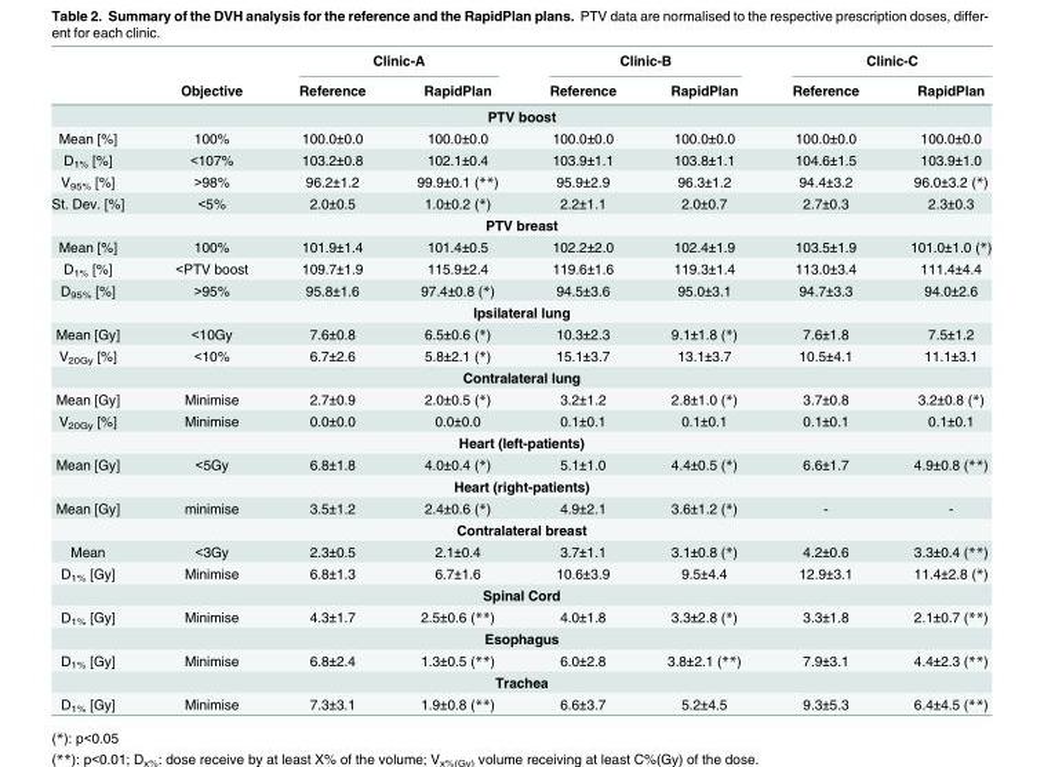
<table><thead><tr><td rowspan="2"></td><td rowspan="2">Objective</td><td colspan="2">Clinic-A</td><td colspan="2">Clinic-B</td><td colspan="2">Clinic-C</td></tr><tr><td>Reference</td><td>RapidPlan</td><td>Reference</td><td>RapidPlan</td><td>Reference</td><td>RapidPlan</td></tr></thead><tbody><tr><td colspan="8">PTV boost</td></tr><tr><td>Mean [%]</td><td>100%</td><td>100.0±0.0</td><td>100.0±0.0</td><td>100.0±0.0</td><td>100.0±0.0</td><td>100.0±0.0</td><td>100.0±0.0</td></tr><tr><td>D<sub>1%</sub> [%]</td><td>&lt;107%</td><td>103.2±0.8</td><td>102.1±0.4</td><td>103.9±1.1</td><td>103.8±1.1</td><td>104.6±1.5</td><td>103.9±1.0</td></tr><tr><td>V<sub>95%</sub> [%]</td><td>&gt;98%</td><td>96.2±1.2</td><td>99.9±0.1 (**)</td><td>95.9±2.9</td><td>96.3±1.2</td><td>94.4±3.2</td><td>96.0±3.2 (*)</td></tr><tr><td>St. Dev. [%]</td><td>&lt;5%</td><td>2.0±0.5</td><td>1.0±0.2 (*)</td><td>2.2±1.1</td><td>2.0±0.7</td><td>2.7±0.3</td><td>2.3±0.3</td></tr><tr><td colspan="8">PTV breast</td></tr><tr><td>Mean [%]</td><td>100%</td><td>101.9±1.4</td><td>101.4±0.5</td><td>102.2±2.0</td><td>102.4±1.9</td><td>103.5±1.9</td><td>101.0±1.0 (*)</td></tr><tr><td>D<sub>1%</sub> [%]</td><td>&lt;PTV boost</td><td>109.7±1.9</td><td>115.9±2.4</td><td>119.6±1.6</td><td>119.3±1.4</td><td>113.0±3.4</td><td>111.4±4.4</td></tr><tr><td>D<sub>95%</sub> [%]</td><td>&gt;95%</td><td>95.8±1.6</td><td>97.4±0.8 (*)</td><td>94.5±3.6</td><td>95.0±3.1</td><td>94.7±3.3</td><td>94.0±2.6</td></tr><tr><td colspan="8">Ipsilateral lung</td></tr><tr><td>Mean [Gy]</td><td>&lt;10Gy</td><td>7.6±0.8</td><td>6.5±0.6 (*)</td><td>10.3±2.3</td><td>9.1±1.8 (*)</td><td>7.6±1.8</td><td>7.5±1.2</td></tr><tr><td>V<sub>20Gy</sub> [%]</td><td>&lt;10%</td><td>6.7±2.6</td><td>5.8±2.1 (*)</td><td>15.1±3.7</td><td>13.1±3.7</td><td>10.5±4.1</td><td>11.1±3.1</td></tr><tr><td colspan="8">Contralateral lung</td></tr><tr><td>Mean [Gy]</td><td>Minimise</td><td>2.7±0.9</td><td>2.0±0.5 (*)</td><td>3.2±1.2</td><td>2.8±1.0 (*)</td><td>3.7±0.8</td><td>3.2±0.8 (*)</td></tr><tr><td>V<sub>20Gy</sub> [%]</td><td>Minimise</td><td>0.0±0.0</td><td>0.0±0.0</td><td>0.1±0.1</td><td>0.1±0.1</td><td>0.1±0.1</td><td>0.1±0.1</td></tr><tr><td colspan="8">Heart (left-patients)</td></tr><tr><td>Mean [Gy]</td><td>&lt;5Gy</td><td>6.8±1.8</td><td>4.0±0.4 (*)</td><td>5.1±1.0</td><td>4.4±0.5 (*)</td><td>6.6±1.7</td><td>4.9±0.8 (**)</td></tr><tr><td colspan="8">Heart (right-patients)</td></tr><tr><td>Mean [Gy]</td><td>minimise</td><td>3.5±1.2</td><td>2.4±0.6 (*)</td><td>4.9±2.1</td><td>3.6±1.2 (*)</td><td>-</td><td>-</td></tr><tr><td colspan="8">Contralateral breast</td></tr><tr><td>Mean</td><td>&lt;3Gy</td><td>2.3±0.5</td><td>2.1±0.4</td><td>3.7±1.1</td><td>3.1±0.8 (*)</td><td>4.2±0.6</td><td>3.3±0.4 (**)</td></tr><tr><td>D<sub>1%</sub> [Gy]</td><td>Minimise</td><td>6.8±1.3</td><td>6.7±1.6</td><td>10.6±3.9</td><td>9.5±4.4</td><td>12.9±3.1</td><td>11.4±2.8 (*)</td></tr><tr><td colspan="8">Spinal Cord</td></tr><tr><td>D<sub>1%</sub> [Gy]</td><td>Minimise</td><td>4.3±1.7</td><td>2.5±0.6 (**)</td><td>4.0±1.8</td><td>3.3±2.8 (*)</td><td>3.3±1.8</td><td>2.1±0.7 (**)</td></tr><tr><td colspan="8">Esophagus</td></tr><tr><td>D<sub>1%</sub> [Gy]</td><td>Minimise</td><td>6.8±2.4</td><td>1.3±0.5 (**)</td><td>6.0±2.8</td><td>3.8±2.1 (**)</td><td>7.9±3.1</td><td>4.4±2.3 (**)</td></tr><tr><td colspan="8">Trachea</td></tr><tr><td>D<sub>1%</sub> [Gy]</td><td>Minimise</td><td>7.3±3.1</td><td>1.9±0.8 (**)</td><td>6.6±3.7</td><td>5.2±4.5</td><td>9.3±5.3</td><td>6.4±4.5 (**)</td></tr></tbody></table>